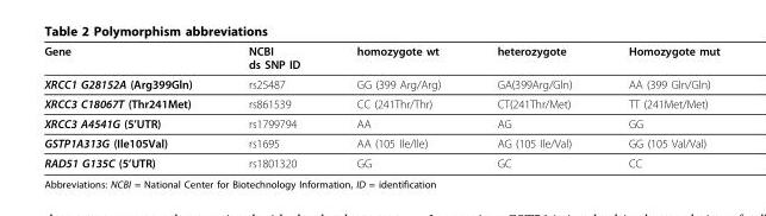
<table><thead><tr><td>Gene</td><td>NCBI ds SNP ID</td><td>homozygote wt</td><td>heterozygote</td><td>Homozygote mut</td></tr></thead><tbody><tr><td>XRCC1 G28152A (Arg399Gln)</td><td>rs25487</td><td>GG (399 Arg/Arg)</td><td>GA(399Arg/Gln)</td><td>AA (399 Gln/Gln)</td></tr><tr><td>XRCC3 C18067T (Thr241Met)</td><td>rs861539</td><td>CC (241Thr/Thr)</td><td>CT(241Thr/Met)</td><td>TT (241Met/Met)</td></tr><tr><td>XRCC3 A4541G (5’UTR)</td><td>rs1799794</td><td>AA</td><td>AG</td><td>GG</td></tr><tr><td>GSTP1A313G (Ile105Val)</td><td>rs1695</td><td>AA (105 Ile/Ile)</td><td>AG (105 Ile/Val)</td><td>GG (105 Val/Val)</td></tr><tr><td>RAD51 G135C (5’UTR)</td><td>rs1801320</td><td>GG</td><td>GC</td><td>CC</td></tr></tbody></table>